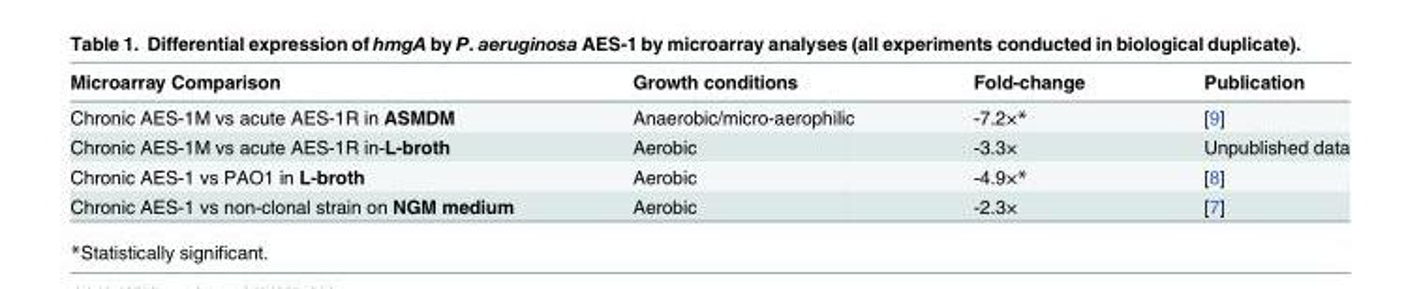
<table><thead><tr><td>Microarray Comparison</td><td>Growth conditions</td><td>Fold-change</td><td>Publication</td></tr></thead><tbody><tr><td>Chronic AES-1M vs acute AES-1R in ASMDM</td><td>Anaerobic/micro-aerophilic</td><td>-7.2×*</td><td>[9]</td></tr><tr><td>Chronic AES-1M vs acute AES-1R in-L-broth</td><td>Aerobic</td><td>-3.3×</td><td>Unpublished data</td></tr><tr><td>Chronic AES-1 vs PAO1 in L-broth</td><td>Aerobic</td><td>-4.9×*</td><td>[8]</td></tr><tr><td>Chronic AES-1 vs non-clonal strain on NGM medium</td><td>Aerobic</td><td>-2.3×</td><td>[7]</td></tr></tbody></table>